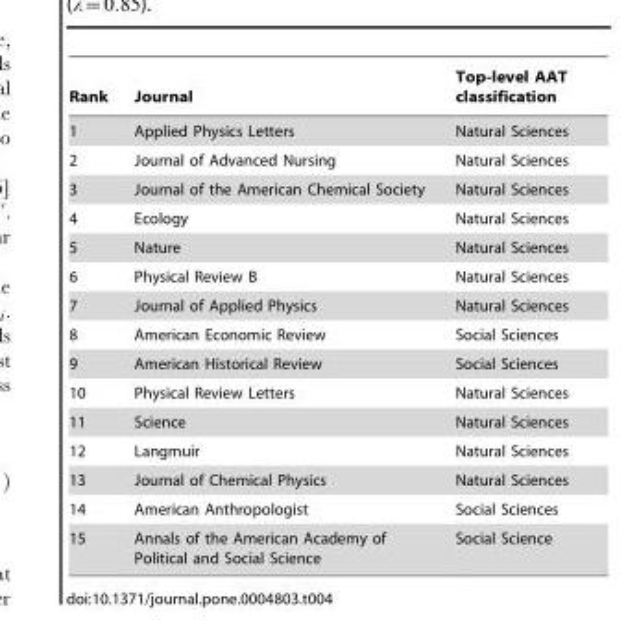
<table><thead><tr><td>Rank</td><td>Journal</td><td>Top-level AAT classification</td></tr></thead><tbody><tr><td>1</td><td>Applied Physics Letters</td><td>Natural Sciences</td></tr><tr><td>2</td><td>Journal of Advanced Nursing</td><td>Natural Sciences</td></tr><tr><td>3</td><td>Journal of the American Chemical Society</td><td>Natural Sciences</td></tr><tr><td>4</td><td>Ecology</td><td>Natural Sciences</td></tr><tr><td>5</td><td>Nature</td><td>Natural Sciences</td></tr><tr><td>6</td><td>Physical Review B</td><td>Natural Sciences</td></tr><tr><td>7</td><td>Journal of Applied Physics</td><td>Natural Sciences</td></tr><tr><td>8</td><td>American Economic Review</td><td>Social Sciences</td></tr><tr><td>9</td><td>American Historical Review</td><td>Social Sciences</td></tr><tr><td>10</td><td>Physical Review Letters</td><td>Natural Sciences</td></tr><tr><td>11</td><td>Science</td><td>Natural Sciences</td></tr><tr><td>12</td><td>Langmuir</td><td>Natural Sciences</td></tr><tr><td>13</td><td>Journal of Chemical Physics</td><td>Natural Sciences</td></tr><tr><td>14</td><td>American Anthropologist</td><td>Social Sciences</td></tr><tr><td>15</td><td>Annals of the American Academy of Political and Social Science</td><td>Social Science</td></tr></tbody></table>